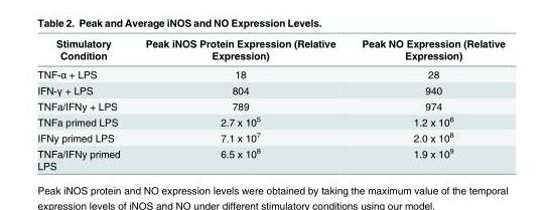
<table><thead><tr><td>Stimulatory Condition</td><td>Peak iNOS Protein Expression (Relative Expression)</td><td>Peak NO Expression (Relative Expression)</td></tr></thead><tbody><tr><td>TNF-α + LPS</td><td>18</td><td>28</td></tr><tr><td>IFN-γ + LPS</td><td>804</td><td>940</td></tr><tr><td>TNFa/IFNy + LPS</td><td>789</td><td>974</td></tr><tr><td>TNFa primed LPS</td><td>2.7 x 10<sup>5</sup></td><td>1.2 x 10<sup>6</sup></td></tr><tr><td>IFNy primed LPS</td><td>7.1 x 10<sup>7</sup></td><td>2.0 x 10<sup>8</sup></td></tr><tr><td>TNFa/IFNy primed LPS</td><td>6.5 x 10<sup>8</sup></td><td>1.9 x 10<sup>9</sup></td></tr></tbody></table>